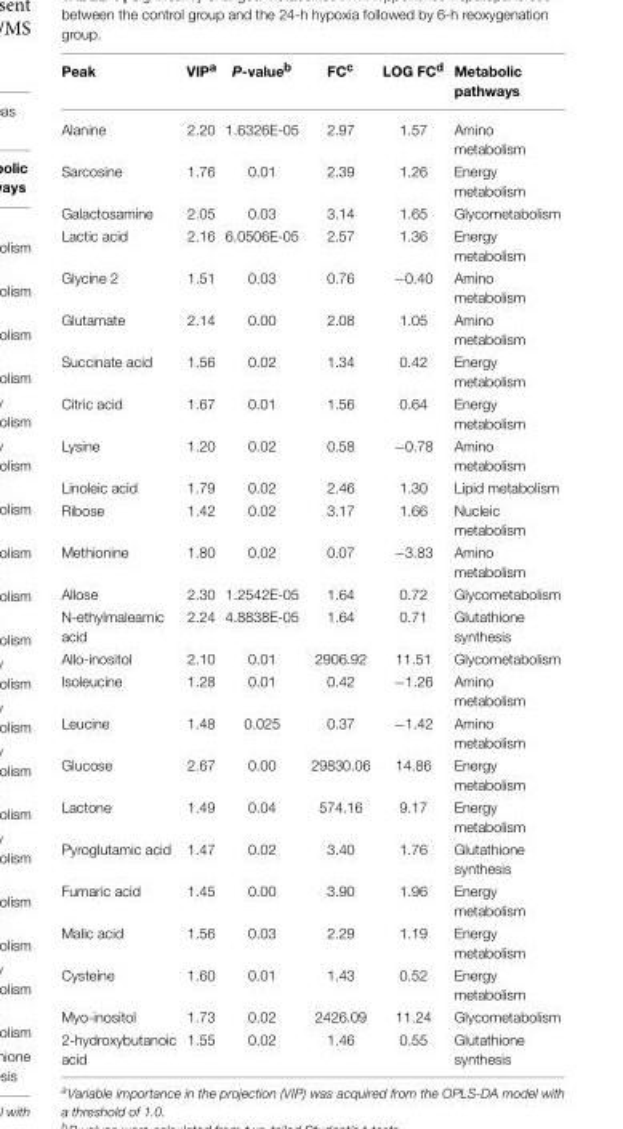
<table><thead><tr><td>Peak</td><td>VIP<sup>a</sup></td><td>P-value<sup>b</sup></td><td>FC<sup>c</sup></td><td>LOG FC<sup>d</sup></td><td>Metabolic pathways</td></tr></thead><tbody><tr><td>Alanine</td><td>2.20</td><td>1.6326E-05</td><td>2.97</td><td>1.57</td><td>Amino metabolism</td></tr><tr><td>Sarcosine</td><td>1.76</td><td>0.01</td><td>2.39</td><td>1.26</td><td>Energy metabolism</td></tr><tr><td>Galactosamine</td><td>2.05</td><td>0.03</td><td>3.14</td><td>1.65</td><td>Glycometabolism</td></tr><tr><td>Lactic acid</td><td>2.16</td><td>6.0506E-05</td><td>2.57</td><td>1.36</td><td>Energy metabolism</td></tr><tr><td>Glycine 2</td><td>1.51</td><td>0.03</td><td>0.76</td><td>−0.40</td><td>Amino metabolism</td></tr><tr><td>Glutamate</td><td>2.14</td><td>0.00</td><td>2.08</td><td>1.05</td><td>Amino metabolism</td></tr><tr><td>Succinate acid</td><td>1.56</td><td>0.02</td><td>1.34</td><td>0.42</td><td>Energy metabolism</td></tr><tr><td>Citric acid</td><td>1.67</td><td>0.01</td><td>1.56</td><td>0.64</td><td>Energy metabolism</td></tr><tr><td>Lysine</td><td>1.20</td><td>0.02</td><td>0.58</td><td>−0.78</td><td>Amino metabolism</td></tr><tr><td>Linoleic acid</td><td>1.79</td><td>0.02</td><td>2.46</td><td>1.30</td><td>Lipid metabolism</td></tr><tr><td>Ribose</td><td>1.42</td><td>0.02</td><td>3.17</td><td>1.66</td><td>Nucleic metabolism</td></tr><tr><td>Methionine</td><td>1.80</td><td>0.02</td><td>0.07</td><td>−3.83</td><td>Amino metabolism</td></tr><tr><td>Allose</td><td>2.30</td><td>1.2542E-05</td><td>1.64</td><td>0.72</td><td>Glycometabolism</td></tr><tr><td>N-ethylmaleamic acid</td><td>2.24</td><td>4.8838E-05</td><td>1.64</td><td>0.71</td><td>Glutathione synthesis</td></tr><tr><td>Allo-inositol</td><td>2.10</td><td>0.01</td><td>2906.92</td><td>11.51</td><td>Glycometabolism</td></tr><tr><td>Isoleucine</td><td>1.28</td><td>0.01</td><td>0.42</td><td>−1.26</td><td>Amino metabolism</td></tr><tr><td>Leucine</td><td>1.48</td><td>0.025</td><td>0.37</td><td>−1.42</td><td>Amino metabolism</td></tr><tr><td>Glucose</td><td>2.67</td><td>0.00</td><td>29830.06</td><td>14.86</td><td>Energy metabolism</td></tr><tr><td>Lactone</td><td>1.49</td><td>0.04</td><td>574.16</td><td>9.17</td><td>Energy metabolism</td></tr><tr><td>Pyroglutamic acid</td><td>1.47</td><td>0.02</td><td>3.40</td><td>1.76</td><td>Glutathione synthesis</td></tr><tr><td>Fumaric acid</td><td>1.45</td><td>0.00</td><td>3.90</td><td>1.96</td><td>Energy metabolism</td></tr><tr><td>Malic acid</td><td>1.56</td><td>0.03</td><td>2.29</td><td>1.19</td><td>Energy metabolism</td></tr><tr><td>Cysteine</td><td>1.60</td><td>0.01</td><td>1.43</td><td>0.52</td><td>Energy metabolism</td></tr><tr><td>Myo-inositol</td><td>1.73</td><td>0.02</td><td>2426.09</td><td>11.24</td><td>Glycometabolism</td></tr><tr><td>2-hydroxybutanoic acid</td><td>1.55</td><td>0.02</td><td>1.46</td><td>0.55</td><td>Glutathione synthesis</td></tr></tbody></table>